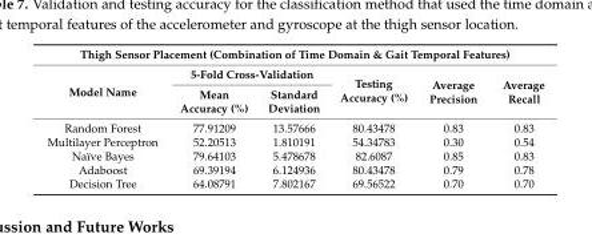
<table><thead><tr><td colspan="6">Thigh Sensor Placement (Combination of Time Domain &amp; Gait Temporal Features)</td></tr><tr><td rowspan="2">Model Name</td><td colspan="2">5-Fold Cross-Validation</td><td rowspan="2">Testing Accuracy (%)</td><td rowspan="2">Average Precision</td><td rowspan="2">Average Recall</td></tr><tr><td>Mean Accuracy (%)</td><td>Standard Deviation</td></tr></thead><tbody><tr><td>Random Forest</td><td>77.91209</td><td>13.57666</td><td>80.43478</td><td>0.83</td><td>0.83</td></tr><tr><td>Multilayer Perceptron</td><td>52.20513</td><td>1.810191</td><td>54.34783</td><td>0.30</td><td>0.54</td></tr><tr><td>Naïve Bayes</td><td>79.64103</td><td>5.478678</td><td>82.6087</td><td>0.85</td><td>0.83</td></tr><tr><td>Adaboost</td><td>69.39194</td><td>6.124936</td><td>80.43478</td><td>0.79</td><td>0.78</td></tr><tr><td>Decision Tree</td><td>64.08791</td><td>7.802167</td><td>69.56522</td><td>0.70</td><td>0.70</td></tr></tbody></table>